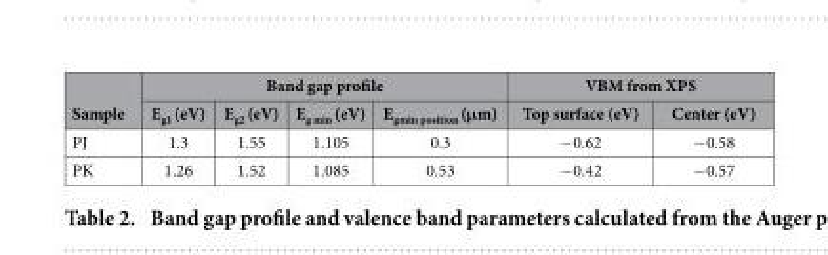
<table><thead><tr><td rowspan="2">Sample</td><td colspan="4">Band gap profile</td><td colspan="2">VBM from XPS</td></tr><tr><td>E<sub>g1</sub> (eV)</td><td>E<sub>g2</sub> (eV)</td><td>E<sub>g min</sub> (eV)</td><td>E<sub>gmin position</sub> (μm)</td><td>Top surface (eV)</td><td>Center (eV)</td></tr></thead><tbody><tr><td>PJ</td><td>1.3</td><td>1.55</td><td>1.105</td><td>0.3</td><td>− 0.62</td><td>− 0.58</td></tr><tr><td>PK</td><td>1.26</td><td>1.52</td><td>1.085</td><td>0.53</td><td>− 0.42</td><td>− 0.57</td></tr></tbody></table>